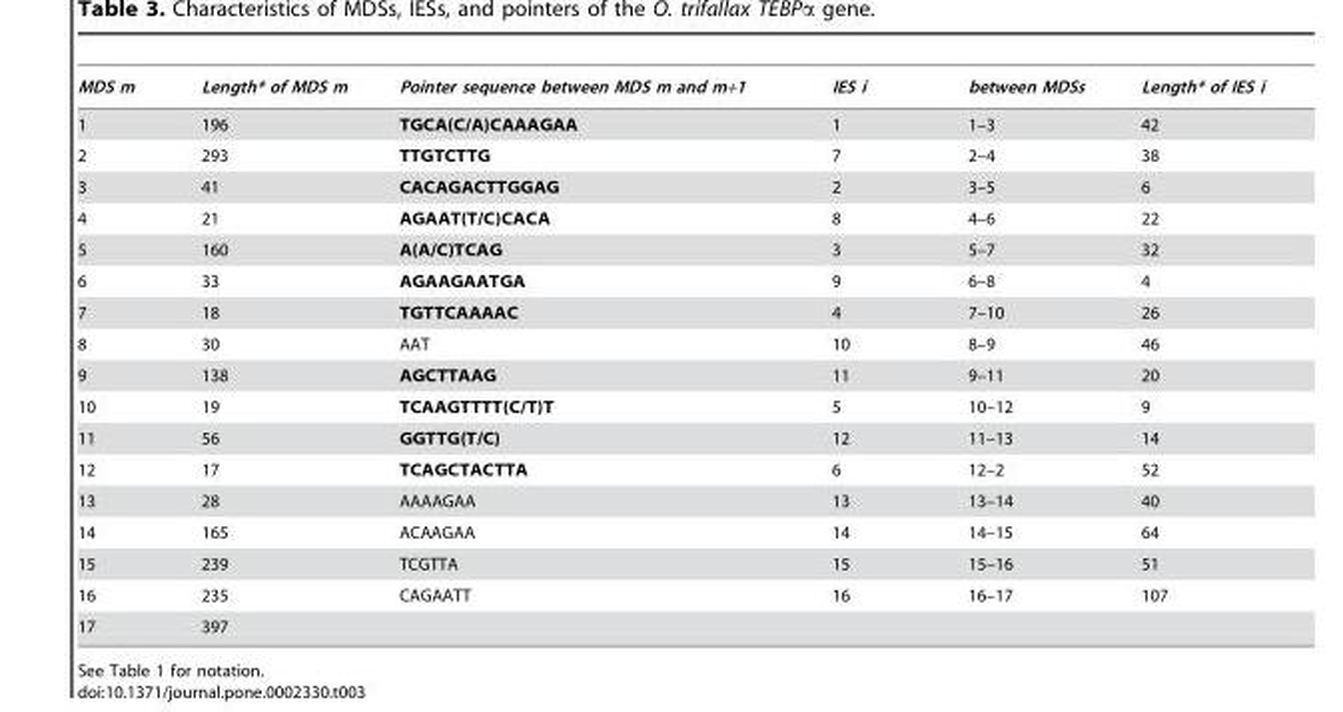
<table><thead><tr><td>MDS m</td><td>Length* of MDS m</td><td>Pointer sequence between MDS m and m+1</td><td>IES i</td><td>between MDSs</td><td>Length* of IES i</td></tr></thead><tbody><tr><td>1</td><td>196</td><td>TGCA(C/A)CAAAGAA</td><td>1</td><td>1–3</td><td>42</td></tr><tr><td>2</td><td>293</td><td>TTGTCTTG</td><td>7</td><td>2–4</td><td>38</td></tr><tr><td>3</td><td>41</td><td>CACAGACTTGGAG</td><td>2</td><td>3–5</td><td>6</td></tr><tr><td>4</td><td>21</td><td>AGAAT(T/C)CACA</td><td>8</td><td>4–6</td><td>22</td></tr><tr><td>5</td><td>160</td><td>A(A/C)TCAG</td><td>3</td><td>5–7</td><td>32</td></tr><tr><td>6</td><td>33</td><td>AGAAGAATGA</td><td>9</td><td>6–8</td><td>4</td></tr><tr><td>7</td><td>18</td><td>TGTTCAAAAC</td><td>4</td><td>7–10</td><td>26</td></tr><tr><td>8</td><td>30</td><td>AAT</td><td>10</td><td>8–9</td><td>46</td></tr><tr><td>9</td><td>138</td><td>AGCTTAAG</td><td>11</td><td>9–11</td><td>20</td></tr><tr><td>10</td><td>19</td><td>TCAAGTTTT(C/T)T</td><td>5</td><td>10–12</td><td>9</td></tr><tr><td>11</td><td>56</td><td>GGTTG(T/C)</td><td>12</td><td>11–13</td><td>14</td></tr><tr><td>12</td><td>17</td><td>TCAGCTACTTA</td><td>6</td><td>12–2</td><td>52</td></tr><tr><td>13</td><td>28</td><td>AAAAGAA</td><td>13</td><td>13–14</td><td>40</td></tr><tr><td>14</td><td>165</td><td>ACAAGAA</td><td>14</td><td>14–15</td><td>64</td></tr><tr><td>15</td><td>239</td><td>TCGTTA</td><td>15</td><td>15–16</td><td>51</td></tr><tr><td>16</td><td>235</td><td>CAGAATT</td><td>16</td><td>16–17</td><td>107</td></tr><tr><td>17</td><td>397</td><td></td><td></td><td></td><td></td></tr></tbody></table>